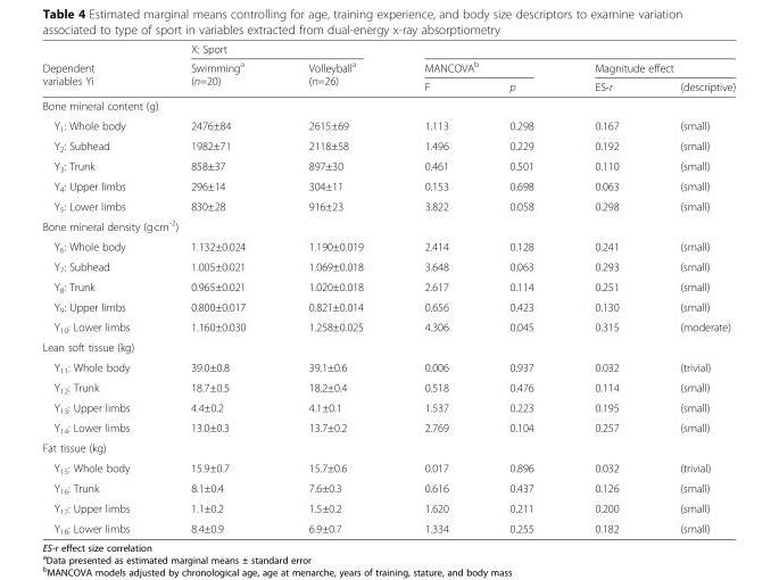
<table><thead><tr><td rowspan="3">Dependent variables Yi</td><td colspan="2">X: Sport</td><td></td><td></td><td></td><td></td></tr><tr><td rowspan="2">Swimming<sup>a</sup> (n=20)</td><td rowspan="2">Volleyball<sup>a</sup> (n=26)</td><td colspan="2">MANCOVA<sup>b</sup></td><td colspan="2">Magnitude effect</td></tr><tr><td>F</td><td>p</td><td>ES-r</td><td>(descriptive)</td></tr></thead><tbody><tr><td colspan="7">Bone mineral content (g)</td></tr><tr><td>Y<sub>1</sub>: Whole body</td><td>2476±84</td><td>2615±69</td><td>1.113</td><td>0.298</td><td>0.167</td><td>(small)</td></tr><tr><td>Y<sub>2</sub>: Subhead</td><td>1982±71</td><td>2118±58</td><td>1.496</td><td>0.229</td><td>0.192</td><td>(small)</td></tr><tr><td>Y<sub>3</sub>: Trunk</td><td>858±37</td><td>897±30</td><td>0.461</td><td>0.501</td><td>0.110</td><td>(small)</td></tr><tr><td>Y<sub>4</sub>: Upper limbs</td><td>296±14</td><td>304±11</td><td>0.153</td><td>0.698</td><td>0.063</td><td>(small)</td></tr><tr><td>Y<sub>5</sub>: Lower limbs</td><td>830±28</td><td>916±23</td><td>3.822</td><td>0.058</td><td>0.298</td><td>(small)</td></tr><tr><td colspan="7">Bone mineral density (g∙cm<sup>-2</sup>)</td></tr><tr><td>Y<sub>6</sub>: Whole body</td><td>1.132±0.024</td><td>1.190±0.019</td><td>2.414</td><td>0.128</td><td>0.241</td><td>(small)</td></tr><tr><td>Y<sub>7</sub>: Subhead</td><td>1.005±0.021</td><td>1.069±0.018</td><td>3.648</td><td>0.063</td><td>0.293</td><td>(small)</td></tr><tr><td>Y<sub>8</sub>: Trunk</td><td>0.965±0.021</td><td>1.020±0.018</td><td>2.617</td><td>0.114</td><td>0.251</td><td>(small)</td></tr><tr><td>Y<sub>9</sub>: Upper limbs</td><td>0.800±0.017</td><td>0.821±0.014</td><td>0.656</td><td>0.423</td><td>0.130</td><td>(small)</td></tr><tr><td>Y<sub>10</sub>: Lower limbs</td><td>1.160±0.030</td><td>1.258±0.025</td><td>4.306</td><td>0.045</td><td>0.315</td><td>(moderate)</td></tr><tr><td colspan="7">Lean soft tissue (kg)</td></tr><tr><td>Y<sub>11</sub>: Whole body</td><td>39.0±0.8</td><td>39.1±0.6</td><td>0.006</td><td>0.937</td><td>0.032</td><td>(trivial)</td></tr><tr><td>Y<sub>12</sub>: Trunk</td><td>18.7±0.5</td><td>18.2±0.4</td><td>0.518</td><td>0.476</td><td>0.114</td><td>(small)</td></tr><tr><td>Y<sub>13</sub>: Upper limbs</td><td>4.4±0.2</td><td>4.1±0.1</td><td>1.537</td><td>0.223</td><td>0.195</td><td>(small)</td></tr><tr><td>Y<sub>14</sub>: Lower limbs</td><td>13.0±0.3</td><td>13.7±0.2</td><td>2.769</td><td>0.104</td><td>0.257</td><td>(small)</td></tr><tr><td colspan="7">Fat tissue (kg)</td></tr><tr><td>Y<sub>15</sub>: Whole body</td><td>15.9±0.7</td><td>15.7±0.6</td><td>0.017</td><td>0.896</td><td>0.032</td><td>(trivial)</td></tr><tr><td>Y<sub>16</sub>: Trunk</td><td>8.1±0.4</td><td>7.6±0.3</td><td>0.616</td><td>0.437</td><td>0.126</td><td>(small)</td></tr><tr><td>Y<sub>17</sub>: Upper limbs</td><td>1.1±0.2</td><td>1.5±0.2</td><td>1.620</td><td>0.211</td><td>0.200</td><td>(small)</td></tr><tr><td>Y<sub>18</sub>: Lower limbs</td><td>8.4±0.9</td><td>6.9±0.7</td><td>1.334</td><td>0.255</td><td>0.182</td><td>(small)</td></tr></tbody></table>